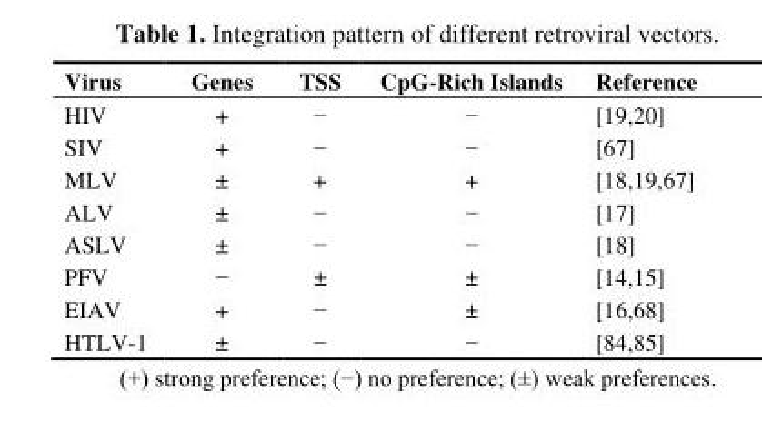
<table><thead><tr><td>Virus</td><td>Genes</td><td>TSS</td><td>CpG-Rich Islands</td><td>Reference</td></tr></thead><tbody><tr><td>HIV</td><td>+</td><td>−</td><td>−</td><td>[19,20]</td></tr><tr><td>SIV</td><td>+</td><td>−</td><td>−</td><td>[67]</td></tr><tr><td>MLV</td><td>±</td><td>+</td><td>+</td><td>[18,19,67]</td></tr><tr><td>ALV</td><td>±</td><td>−</td><td>−</td><td>[17]</td></tr><tr><td>ASLV</td><td>±</td><td>−</td><td>−</td><td>[18]</td></tr><tr><td>PFV</td><td>−</td><td>±</td><td>±</td><td>[14,15]</td></tr><tr><td>EIAV</td><td>+</td><td>−</td><td>±</td><td>[16,68]</td></tr><tr><td>HTLV-1</td><td>±</td><td>−</td><td>−</td><td>[84,85]</td></tr></tbody></table>